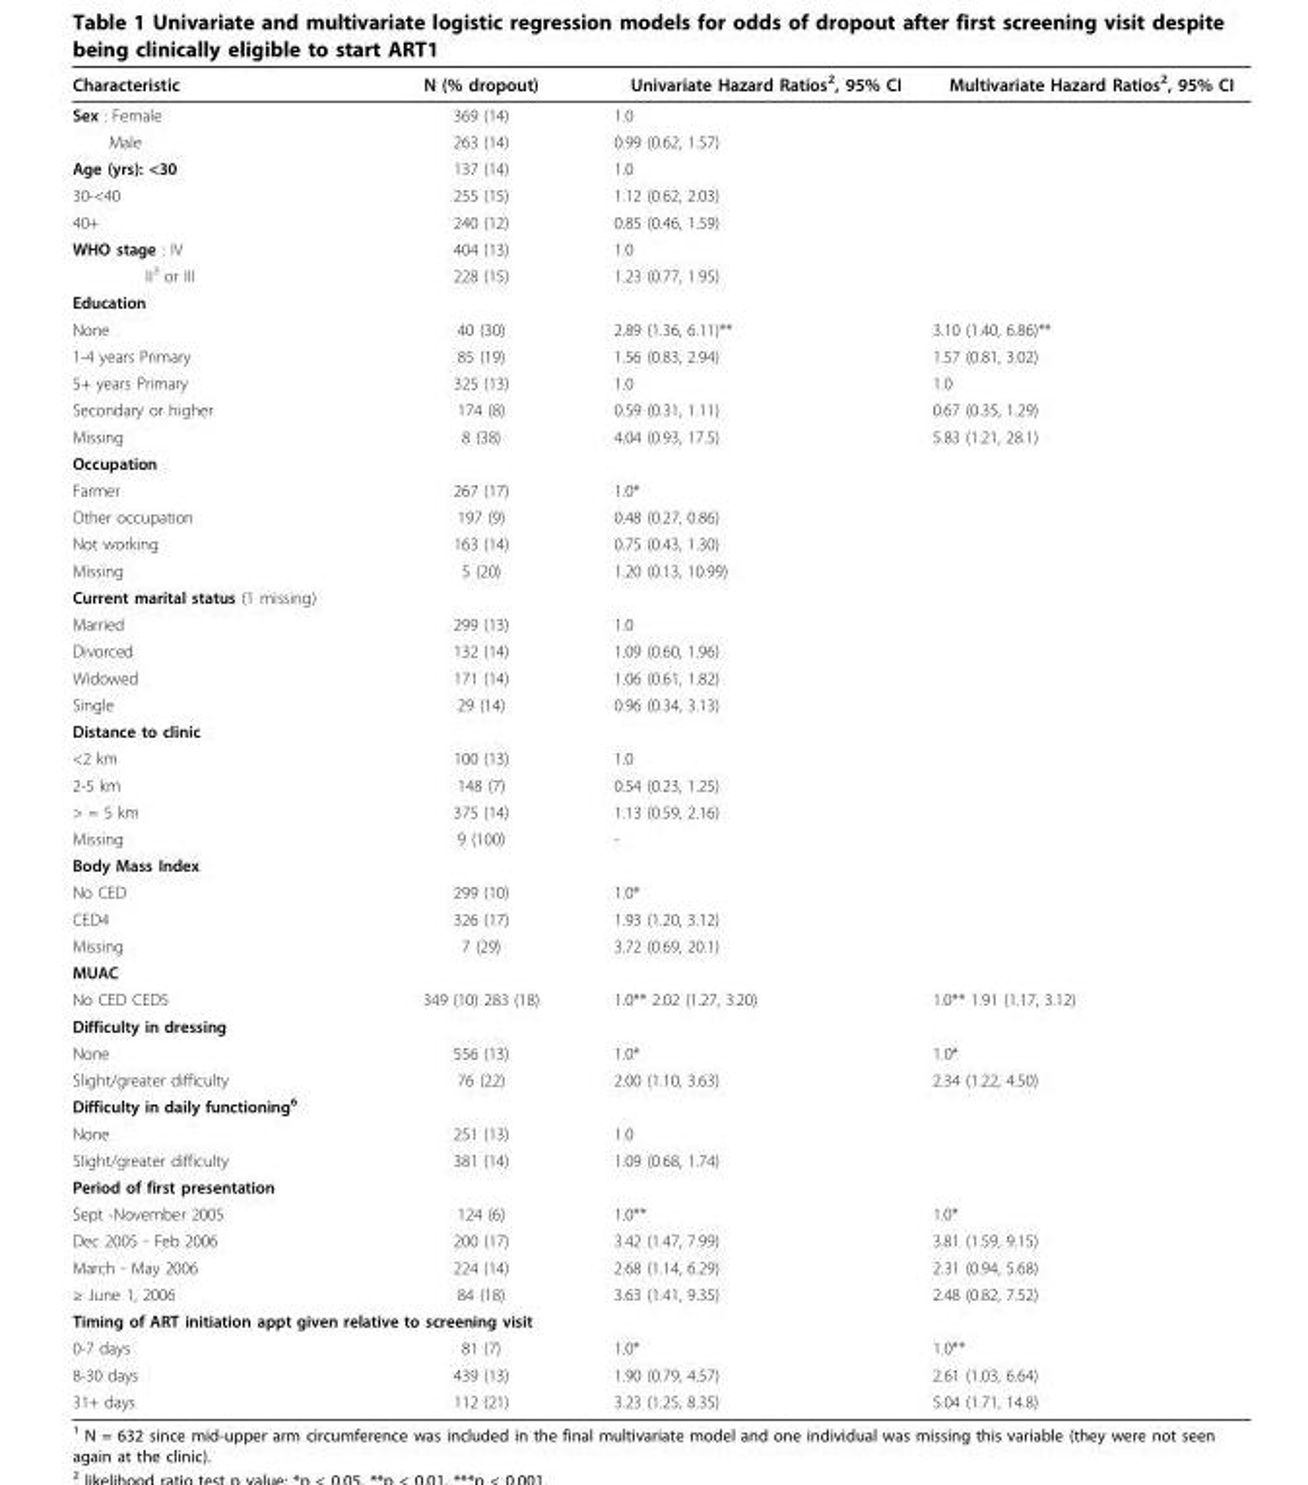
<table><thead><tr><td>Characteristic</td><td>N (% dropout)</td><td>Univariate Hazard Ratios<sup>2</sup>, 95% CI</td><td>Multivariate Hazard Ratios<sup>2</sup>, 95% CI</td></tr></thead><tbody><tr><td>Sex : Female</td><td>369 (14)</td><td>1.0</td><td></td></tr><tr><td>Male</td><td>263 (14)</td><td>0.99 (0.62, 1.57)</td><td></td></tr><tr><td>Age (yrs): &lt;30</td><td>137 (14)</td><td>1.0</td><td></td></tr><tr><td>30-&lt;40</td><td>255 (15)</td><td>1.12 (0.62, 2.03)</td><td></td></tr><tr><td>40+</td><td>240 (12)</td><td>0.85 (0.46, 1.59)</td><td></td></tr><tr><td>WHO stage : IV</td><td>404 (13)</td><td>1.0</td><td></td></tr><tr><td>II<sup>3</sup> or III</td><td>228 (15)</td><td>1.23 (0.77, 1.95)</td><td></td></tr><tr><td colspan="4">Education</td></tr><tr><td>None</td><td>40 (30)</td><td>2.89 (1.36, 6.11)**</td><td>3.10 (1.40, 6.86)**</td></tr><tr><td>1-4 years Primary</td><td>85 (19)</td><td>1.56 (0.83, 2.94)</td><td>1.57 (0.81, 3.02)</td></tr><tr><td>5+ years Primary</td><td>325 (13)</td><td>1.0</td><td>1.0</td></tr><tr><td>Secondary or higher</td><td>174 (8)</td><td>0.59 (0.31, 1.11)</td><td>0.67 (0.35, 1.29)</td></tr><tr><td>Missing</td><td>8 (38)</td><td>4.04 (0.93, 17.5)</td><td>5.83 (1.21, 28.1)</td></tr><tr><td colspan="4">Occupation</td></tr><tr><td>Farmer</td><td>267 (17)</td><td>1.0*</td><td></td></tr><tr><td>Other occupation</td><td>197 (9)</td><td>0.48 (0.27, 0.86)</td><td></td></tr><tr><td>Not working</td><td>163 (14)</td><td>0.75 (0.43, 1.30)</td><td></td></tr><tr><td>Missing</td><td>5 (20)</td><td>1.20 (0.13, 10.99)</td><td></td></tr><tr><td colspan="4">Current marital status (1 missing)</td></tr><tr><td>Married</td><td>299 (13)</td><td>1.0</td><td></td></tr><tr><td>Divorced</td><td>132 (14)</td><td>1.09 (0.60, 1.96)</td><td></td></tr><tr><td>Widowed</td><td>171 (14)</td><td>1.06 (0.61, 1.82)</td><td></td></tr><tr><td>Single</td><td>29 (14)</td><td>0.96 (0.34, 3.13)</td><td></td></tr><tr><td colspan="4">Distance to clinic</td></tr><tr><td>&lt;2 km</td><td>100 (13)</td><td>1.0</td><td></td></tr><tr><td>2-5 km</td><td>148 (7)</td><td>0.54 (0.23, 1.25)</td><td></td></tr><tr><td>&gt; = 5 km</td><td>375 (14)</td><td>1.13 (0.59, 2.16)</td><td></td></tr><tr><td>Missing</td><td>9 (100)</td><td>-</td><td></td></tr><tr><td colspan="4">Body Mass Index</td></tr><tr><td>No CED</td><td>299 (10)</td><td>1.0*</td><td></td></tr><tr><td>CED4</td><td>326 (17)</td><td>1.93 (1.20, 3.12)</td><td></td></tr><tr><td>Missing</td><td>7 (29)</td><td>3.72 (0.69, 20.1)</td><td></td></tr><tr><td colspan="4">MUAC</td></tr><tr><td>No CED CED5</td><td>349 (10) 283 (18)</td><td>1.0** 2.02 (1.27, 3.20)</td><td>1.0** 1.91 (1.17, 3.12)</td></tr><tr><td colspan="4">Difficulty in dressing</td></tr><tr><td>None</td><td>556 (13)</td><td>1.0*</td><td>1.0*</td></tr><tr><td>Slight/greater difficulty</td><td>76 (22)</td><td>2.00 (1.10, 3.63)</td><td>2.34 (1.22, 4.50)</td></tr><tr><td colspan="4">Difficulty in daily functioning<sup>6</sup></td></tr><tr><td>None</td><td>251 (13)</td><td>1.0</td><td></td></tr><tr><td>Slight/greater difficulty</td><td>381 (14)</td><td>1.09 (0.68, 1.74)</td><td></td></tr><tr><td colspan="4">Period of first presentation</td></tr><tr><td>Sept -November 2005</td><td>124 (6)</td><td>1.0**</td><td>1.0*</td></tr><tr><td>Dec 2005 - Feb 2006</td><td>200 (17)</td><td>3.42 (1.47, 7.99)</td><td>3.81 (1.59, 9.15)</td></tr><tr><td>March - May 2006</td><td>224 (14)</td><td>2.68 (1.14, 6.29)</td><td>2.31 (0.94, 5.68)</td></tr><tr><td>≥ June 1, 2006</td><td>84 (18)</td><td>3.63 (1.41, 9.35)</td><td>2.48 (0.82, 7.52)</td></tr><tr><td colspan="4">Timing of ART initiation appt given relative to screening visit</td></tr><tr><td>0-7 days</td><td>81 (7)</td><td>1.0*</td><td>1.0**</td></tr><tr><td>8-30 days</td><td>439 (13)</td><td>1.90 (0.79, 4.57)</td><td>2.61 (1.03, 6.64)</td></tr><tr><td>31+ days</td><td>112 (21)</td><td>3.23 (1.25, 8.35)</td><td>5.04 (1.71, 14.8)</td></tr></tbody></table>